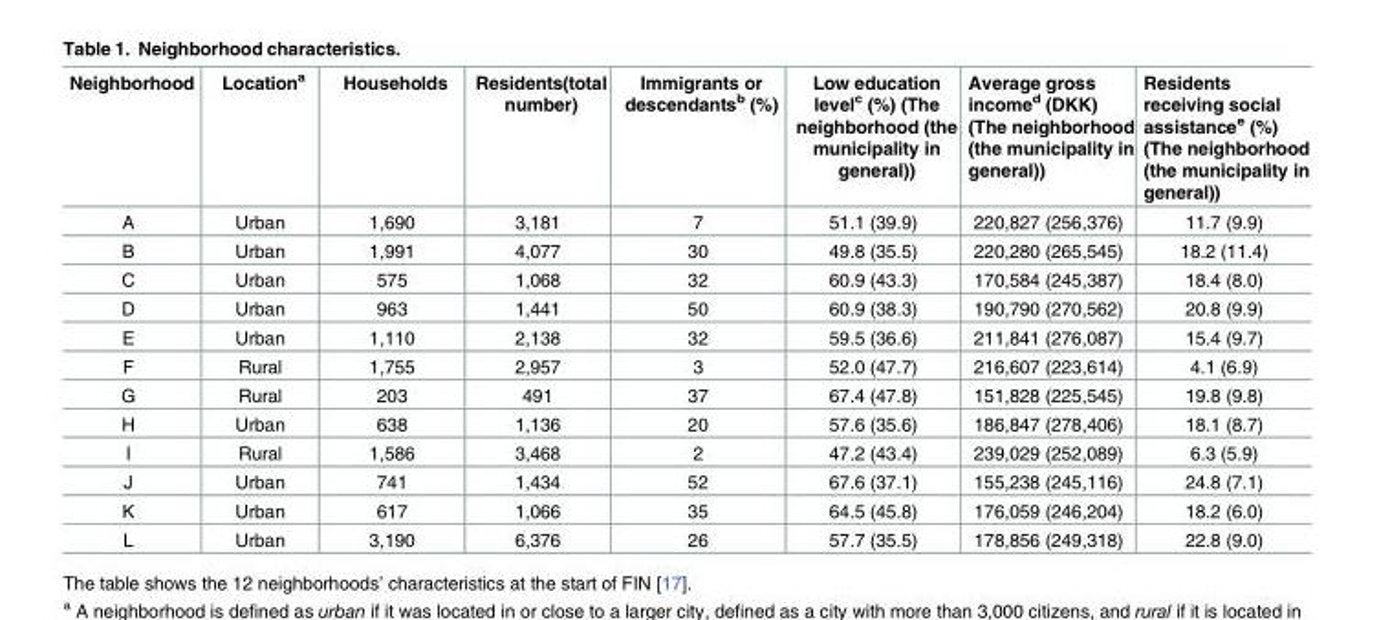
<table><thead><tr><td>Neighborhood</td><td>Location<sup>a</sup></td><td>Households</td><td>Residents(total number)</td><td>Immigrants or descendants<sup>b</sup> (%)</td><td>Low education level<sup>c</sup> (%) (The neighborhood (the municipality in general))</td><td>Average gross income<sup>d</sup> (DKK) (The neighborhood (the municipality in general))</td><td>Residents receiving social assistance<sup>e</sup> (%) (The neighborhood (the municipality in general))</td></tr></thead><tbody><tr><td>A</td><td>Urban</td><td>1,690</td><td>3,181</td><td>7</td><td>51.1 (39.9)</td><td>220,827 (256,376)</td><td>11.7 (9.9)</td></tr><tr><td>B</td><td>Urban</td><td>1,991</td><td>4,077</td><td>30</td><td>49.8 (35.5)</td><td>220,280 (265,545)</td><td>18.2 (11.4)</td></tr><tr><td>C</td><td>Urban</td><td>575</td><td>1,068</td><td>32</td><td>60.9 (43.3)</td><td>170,584 (245,387)</td><td>18.4 (8.0)</td></tr><tr><td>D</td><td>Urban</td><td>963</td><td>1,441</td><td>50</td><td>60.9 (38.3)</td><td>190,790 (270,562)</td><td>20.8 (9.9)</td></tr><tr><td>E</td><td>Urban</td><td>1,110</td><td>2,138</td><td>32</td><td>59.5 (36.6)</td><td>211,841 (276,087)</td><td>15.4 (9.7)</td></tr><tr><td>F</td><td>Rural</td><td>1,755</td><td>2,957</td><td>3</td><td>52.0 (47.7)</td><td>216,607 (223,614)</td><td>4.1 (6.9)</td></tr><tr><td>G</td><td>Rural</td><td>203</td><td>491</td><td>37</td><td>67.4 (47.8)</td><td>151,828 (225,545)</td><td>19.8 (9.8)</td></tr><tr><td>H</td><td>Urban</td><td>638</td><td>1,136</td><td>20</td><td>57.6 (35.6)</td><td>186,847 (278,406)</td><td>18.1 (8.7)</td></tr><tr><td>I</td><td>Rural</td><td>1,586</td><td>3,468</td><td>2</td><td>47.2 (43.4)</td><td>239,029 (252,089)</td><td>6.3 (5.9)</td></tr><tr><td>J</td><td>Urban</td><td>741</td><td>1,434</td><td>52</td><td>67.6 (37.1)</td><td>155,238 (245,116)</td><td>24.8 (7.1)</td></tr><tr><td>K</td><td>Urban</td><td>617</td><td>1,066</td><td>35</td><td>64.5 (45.8)</td><td>176,059 (246,204)</td><td>18.2 (6.0)</td></tr><tr><td>L</td><td>Urban</td><td>3,190</td><td>6,376</td><td>26</td><td>57.7 (35.5)</td><td>178,856 (249,318)</td><td>22.8 (9.0)</td></tr></tbody></table>